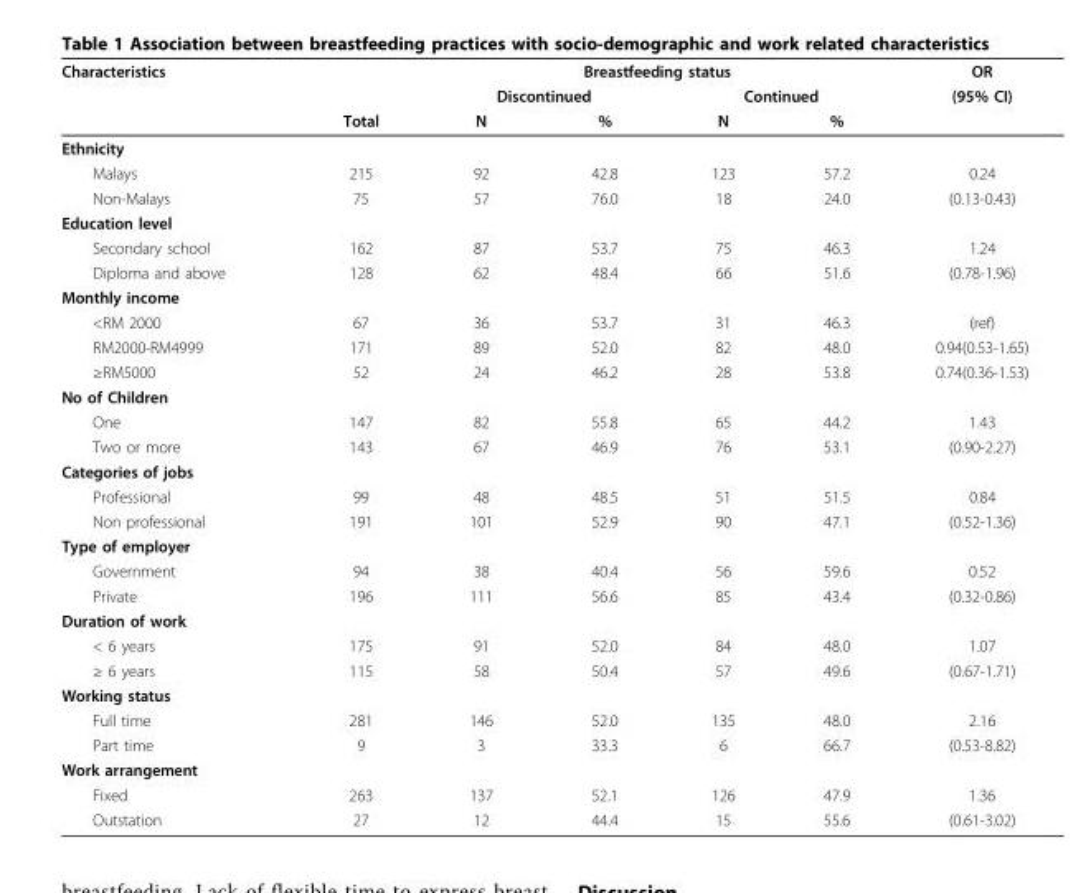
<table><thead><tr><td rowspan="3">Characteristics</td><td rowspan="3">Total</td><td colspan="4">Breastfeeding status</td><td rowspan="3">OR (95% CI)</td></tr><tr><td colspan="2">Discontinued</td><td colspan="2">Continued</td></tr><tr><td>N</td><td>%</td><td>N</td><td>%</td></tr></thead><tbody><tr><td colspan="7">Ethnicity</td></tr><tr><td>Malays</td><td>215</td><td>92</td><td>42.8</td><td>123</td><td>57.2</td><td>0.24</td></tr><tr><td>Non-Malays</td><td>75</td><td>57</td><td>76.0</td><td>18</td><td>24.0</td><td>(0.13-0.43)</td></tr><tr><td colspan="7">Education level</td></tr><tr><td>Secondary school</td><td>162</td><td>87</td><td>53.7</td><td>75</td><td>46.3</td><td>1.24</td></tr><tr><td>Diploma and above</td><td>128</td><td>62</td><td>48.4</td><td>66</td><td>51.6</td><td>(0.78-1.96)</td></tr><tr><td colspan="7">Monthly income</td></tr><tr><td>&lt;RM 2000</td><td>67</td><td>36</td><td>53.7</td><td>31</td><td>46.3</td><td>(ref)</td></tr><tr><td>RM2000-RM4999</td><td>171</td><td>89</td><td>52.0</td><td>82</td><td>48.0</td><td>0.94(0.53-1.65)</td></tr><tr><td>≥RM5000</td><td>52</td><td>24</td><td>46.2</td><td>28</td><td>53.8</td><td>0.74(0.36-1.53)</td></tr><tr><td colspan="7">No of Children</td></tr><tr><td>One</td><td>147</td><td>82</td><td>55.8</td><td>65</td><td>44.2</td><td>1.43</td></tr><tr><td>Two or more</td><td>143</td><td>67</td><td>46.9</td><td>76</td><td>53.1</td><td>(0.90-2.27)</td></tr><tr><td colspan="7">Categories of jobs</td></tr><tr><td>Professional</td><td>99</td><td>48</td><td>48.5</td><td>51</td><td>51.5</td><td>0.84</td></tr><tr><td>Non professional</td><td>191</td><td>101</td><td>52.9</td><td>90</td><td>47.1</td><td>(0.52-1.36)</td></tr><tr><td colspan="7">Type of employer</td></tr><tr><td>Government</td><td>94</td><td>38</td><td>40.4</td><td>56</td><td>59.6</td><td>0.52</td></tr><tr><td>Private</td><td>196</td><td>111</td><td>56.6</td><td>85</td><td>43.4</td><td>(0.32-0.86)</td></tr><tr><td colspan="7">Duration of work</td></tr><tr><td>&lt; 6 years</td><td>175</td><td>91</td><td>52.0</td><td>84</td><td>48.0</td><td>1.07</td></tr><tr><td>≥ 6 years</td><td>115</td><td>58</td><td>50.4</td><td>57</td><td>49.6</td><td>(0.67-1.71)</td></tr><tr><td colspan="7">Working status</td></tr><tr><td>Full time</td><td>281</td><td>146</td><td>52.0</td><td>135</td><td>48.0</td><td>2.16</td></tr><tr><td>Part time</td><td>9</td><td>3</td><td>33.3</td><td>6</td><td>66.7</td><td>(0.53-8.82)</td></tr><tr><td colspan="7">Work arrangement</td></tr><tr><td>Fixed</td><td>263</td><td>137</td><td>52.1</td><td>126</td><td>47.9</td><td>1.36</td></tr><tr><td>Outstation</td><td>27</td><td>12</td><td>44.4</td><td>15</td><td>55.6</td><td>(0.61-3.02)</td></tr></tbody></table>